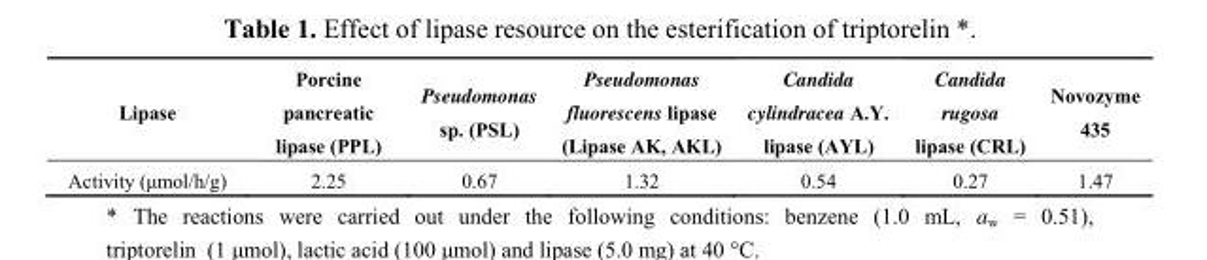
<table><thead><tr><td>Lipase</td><td>Porcine pancreatic lipase (PPL)</td><td>Pseudomonas sp. (PSL)</td><td>Pseudomonas fluorescens lipase (Lipase AK, AKL)</td><td>Candida cylindracea A.Y. lipase (AYL)</td><td>Candida rugosa lipase (CRL)</td><td>Novozyme 435</td></tr></thead><tbody><tr><td>Activity (μmol/h/g)</td><td>2.25</td><td>0.67</td><td>1.32</td><td>0.54</td><td>0.27</td><td>1.47</td></tr></tbody></table>